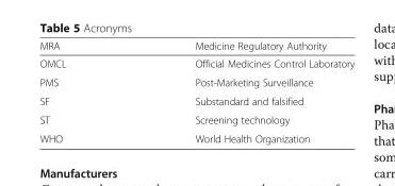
<table><thead><tr><td>MRA</td><td>Medicine Regulatory Authority</td></tr></thead><tbody><tr><td>OMCL</td><td>Official Medicines Control Laboratory</td></tr><tr><td>PMS</td><td>Post-Marketing Surveillance</td></tr><tr><td>SF</td><td>Substandard and falsified</td></tr><tr><td>ST</td><td>Screening technology</td></tr><tr><td>WHO</td><td>World Health Organization</td></tr></tbody></table>